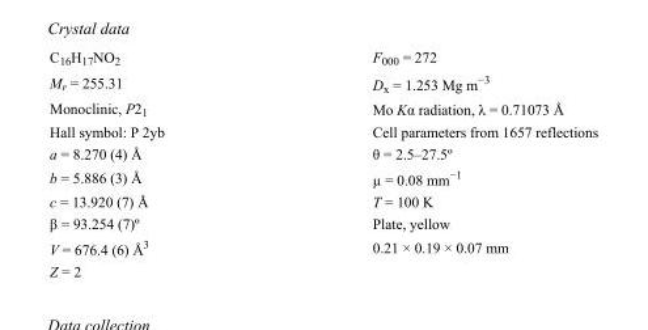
<table><tbody><tr><td>C<sub>16</sub>H<sub>17</sub>NO<sub>2</sub></td><td>F000 = 272</td></tr><tr><td>M<sub>r</sub> = 255.31</td><td>D<sub>x</sub> = 1.253 Mg m<sup>−3</sup></td></tr><tr><td>Monoclinic, P2<sub>1</sub></td><td>Mo Kα radiation, λ = 0.71073 Å</td></tr><tr><td>Hall symbol: P 2yb</td><td>Cell parameters from 1657 reflections</td></tr><tr><td>a = 8.270 (4) Å</td><td>θ = 2.5–27.5º</td></tr><tr><td>b = 5.886 (3) Å</td><td>µ = 0.08 mm<sup>−1</sup></td></tr><tr><td>c = 13.920 (7) Å</td><td>T = 100 K</td></tr><tr><td>β = 93.254 (7)º</td><td>Plate, yellow</td></tr><tr><td>V = 676.4 (6) Å<sup>3</sup></td><td>0.21 × 0.19 × 0.07 mm</td></tr><tr><td>Z = 2</td><td></td></tr></tbody></table>